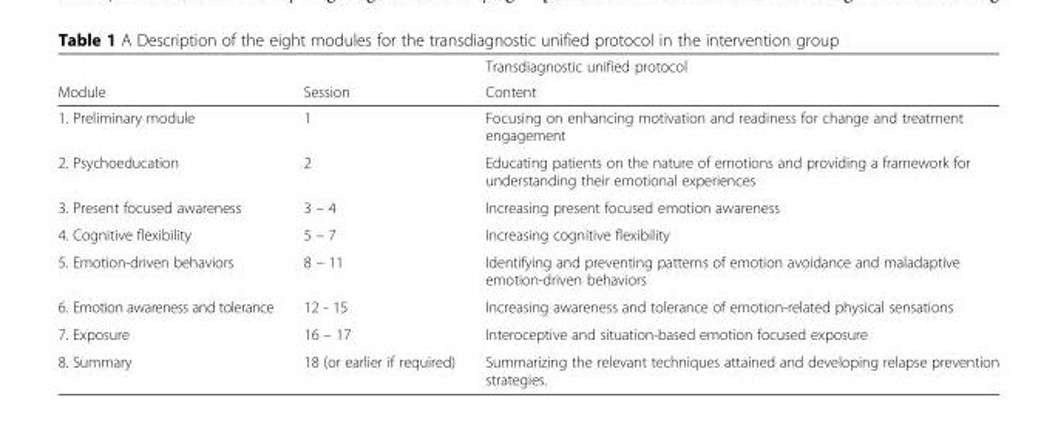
<table><thead><tr><td rowspan="2">Module</td><td rowspan="2">Session</td><td rowspan="2">Transdiagnostic unified protocol Content</td></tr><tr></tr></thead><tbody><tr><td>1. Preliminary module</td><td>1</td><td>Focusing on enhancing motivation and readiness for change and treatment engagement</td></tr><tr><td>2. Psychoeducation</td><td>2</td><td>Educating patients on the nature of emotions and providing a framework for understanding their emotional experiences</td></tr><tr><td>3. Present focused awareness</td><td>3 – 4</td><td>Increasing present focused emotion awareness</td></tr><tr><td>4. Cognitive flexibility</td><td>5 – 7</td><td>Increasing cognitive flexibility</td></tr><tr><td>5. Emotion-driven behaviors</td><td>8 – 11</td><td>Identifying and preventing patterns of emotion avoidance and maladaptive emotion-driven behaviors</td></tr><tr><td>6. Emotion awareness and tolerance</td><td>12 - 15</td><td>Increasing awareness and tolerance of emotion-related physical sensations</td></tr><tr><td>7. Exposure</td><td>16 – 17</td><td>Interoceptive and situation-based emotion focused exposure</td></tr><tr><td>8. Summary</td><td>18 (or earlier if required)</td><td>Summarizing the relevant techniques attained and developing relapse prevention strategies.</td></tr></tbody></table>